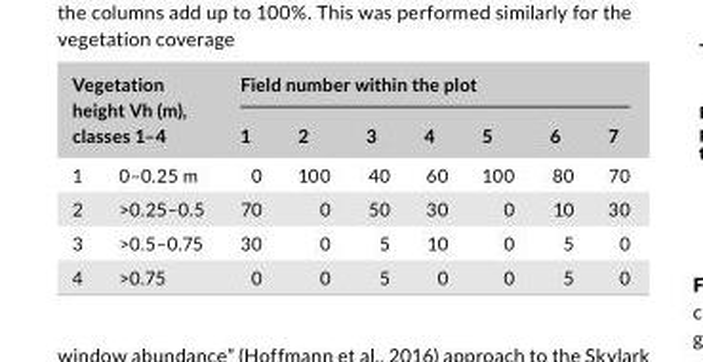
<table><thead><tr><td rowspan="2" colspan="2">Vegetation height Vh (m), classes 1–4</td><td colspan="7">Field number within the plot</td></tr><tr><td rowspan="2">1 0</td><td rowspan="2">2 100</td><td rowspan="2">3 40</td><td rowspan="2">4 60</td><td rowspan="2">5 100</td><td rowspan="2">6 80</td><td rowspan="2">7 70</td></tr><tr><td>1</td><td>0–0.25 m</td></tr></thead><tbody><tr><td>2</td><td>&gt;0.25–0.5</td><td>70</td><td>0</td><td>50</td><td>30</td><td>0</td><td>10</td><td>30</td></tr><tr><td>3</td><td>&gt;0.5–0.75</td><td>30</td><td>0</td><td>5</td><td>10</td><td>0</td><td>5</td><td>0</td></tr><tr><td>4</td><td>&gt;0.75</td><td>0</td><td>0</td><td>5</td><td>0</td><td>0</td><td>5</td><td>0</td></tr></tbody></table>